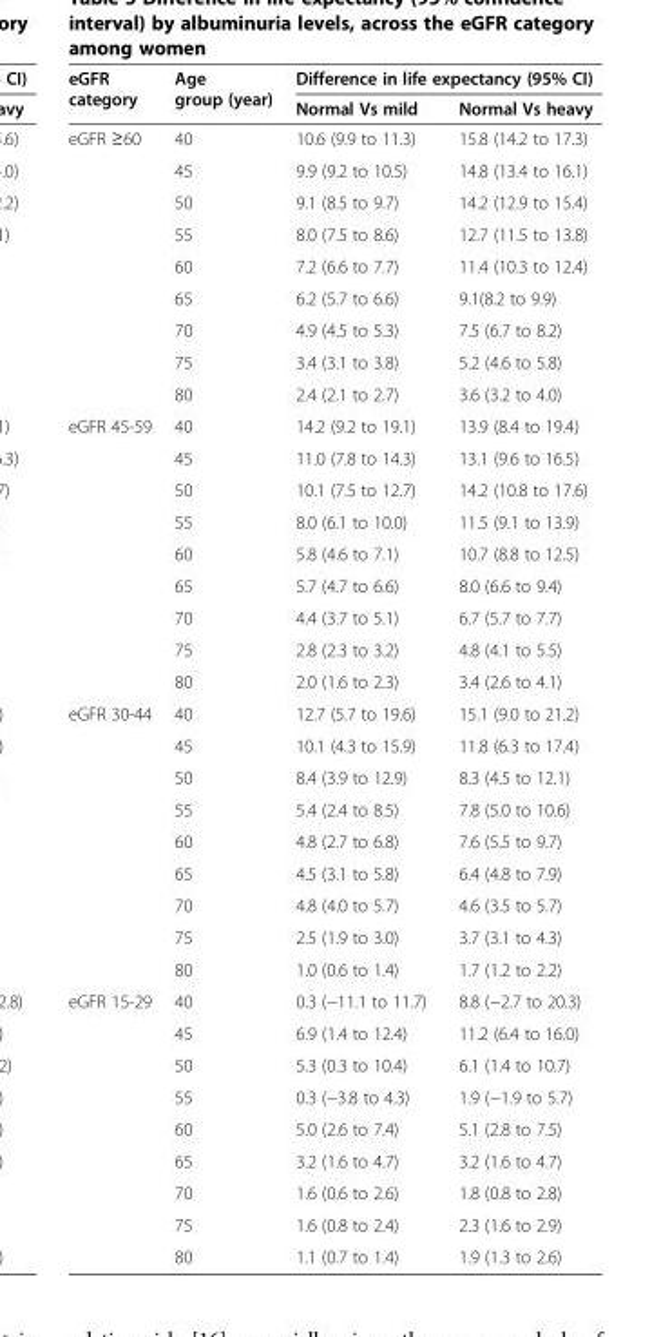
<table><thead><tr><td rowspan="2">eGFR category</td><td rowspan="2">Age group (year)</td><td colspan="2">Difference in life expectancy (95% CI)</td></tr><tr><td>Normal Vs mild</td><td>Normal Vs heavy</td></tr></thead><tbody><tr><td rowspan="9">eGFR ≥60</td><td>40</td><td>10.6 (9.9 to 11.3)</td><td>15.8 (14.2 to 17.3)</td></tr><tr><td>45</td><td>9.9 (9.2 to 10.5)</td><td>14.8 (13.4 to 16.1)</td></tr><tr><td>50</td><td>9.1 (8.5 to 9.7)</td><td>14.2 (12.9 to 15.4)</td></tr><tr><td>55</td><td>8.0 (7.5 to 8.6)</td><td>12.7 (11.5 to 13.8)</td></tr><tr><td>60</td><td>7.2 (6.6 to 7.7)</td><td>11.4 (10.3 to 12.4)</td></tr><tr><td>65</td><td>6.2 (5.7 to 6.6)</td><td>9.1(8.2 to 9.9)</td></tr><tr><td>70</td><td>4.9 (4.5 to 5.3)</td><td>7.5 (6.7 to 8.2)</td></tr><tr><td>75</td><td>3.4 (3.1 to 3.8)</td><td>5.2 (4.6 to 5.8)</td></tr><tr><td>80</td><td>2.4 (2.1 to 2.7)</td><td>3.6 (3.2 to 4.0)</td></tr><tr><td rowspan="9">eGFR 45-59</td><td>40</td><td>14.2 (9.2 to 19.1)</td><td>13.9 (8.4 to 19.4)</td></tr><tr><td>45</td><td>11.0 (7.8 to 14.3)</td><td>13.1 (9.6 to 16.5)</td></tr><tr><td>50</td><td>10.1 (7.5 to 12.7)</td><td>14.2 (10.8 to 17.6)</td></tr><tr><td>55</td><td>8.0 (6.1 to 10.0)</td><td>11.5 (9.1 to 13.9)</td></tr><tr><td>60</td><td>5.8 (4.6 to 7.1)</td><td>10.7 (8.8 to 12.5)</td></tr><tr><td>65</td><td>5.7 (4.7 to 6.6)</td><td>8.0 (6.6 to 9.4)</td></tr><tr><td>70</td><td>4.4 (3.7 to 5.1)</td><td>6.7 (5.7 to 7.7)</td></tr><tr><td>75</td><td>2.8 (2.3 to 3.2)</td><td>4.8 (4.1 to 5.5)</td></tr><tr><td>80</td><td>2.0 (1.6 to 2.3)</td><td>3.4 (2.6 to 4.1)</td></tr><tr><td rowspan="9">eGFR 30-44</td><td>40</td><td>12.7 (5.7 to 19.6)</td><td>15.1 (9.0 to 21.2)</td></tr><tr><td>45</td><td>10.1 (4.3 to 15.9)</td><td>11.8 (6.3 to 17.4)</td></tr><tr><td>50</td><td>8.4 (3.9 to 12.9)</td><td>8.3 (4.5 to 12.1)</td></tr><tr><td>55</td><td>5.4 (2.4 to 8.5)</td><td>7.8 (5.0 to 10.6)</td></tr><tr><td>60</td><td>4.8 (2.7 to 6.8)</td><td>7.6 (5.5 to 9.7)</td></tr><tr><td>65</td><td>4.5 (3.1 to 5.8)</td><td>6.4 (4.8 to 7.9)</td></tr><tr><td>70</td><td>4.8 (4.0 to 5.7)</td><td>4.6 (3.5 to 5.7)</td></tr><tr><td>75</td><td>2.5 (1.9 to 3.0)</td><td>3.7 (3.1 to 4.3)</td></tr><tr><td>80</td><td>1.0 (0.6 to 1.4)</td><td>1.7 (1.2 to 2.2)</td></tr><tr><td rowspan="9">eGFR 15-29</td><td>40</td><td>0.3 (−11.1 to 11.7)</td><td>8.8 (−2.7 to 20.3)</td></tr><tr><td>45</td><td>6.9 (1.4 to 12.4)</td><td>11.2 (6.4 to 16.0)</td></tr><tr><td>50</td><td>5.3 (0.3 to 10.4)</td><td>6.1 (1.4 to 10.7)</td></tr><tr><td>55</td><td>0.3 (−3.8 to 4.3)</td><td>1.9 (−1.9 to 5.7)</td></tr><tr><td>60</td><td>5.0 (2.6 to 7.4)</td><td>5.1 (2.8 to 7.5)</td></tr><tr><td>65</td><td>3.2 (1.6 to 4.7)</td><td>3.2 (1.6 to 4.7)</td></tr><tr><td>70</td><td>1.6 (0.6 to 2.6)</td><td>1.8 (0.8 to 2.8)</td></tr><tr><td>75</td><td>1.6 (0.8 to 2.4)</td><td>2.3 (1.6 to 2.9)</td></tr><tr><td>80</td><td>1.1 (0.7 to 1.4)</td><td>1.9 (1.3 to 2.6)</td></tr></tbody></table>